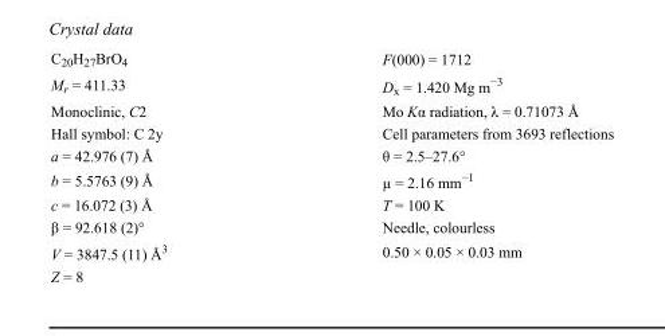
<table><tbody><tr><td>C<sub>20</sub>H<sub>27</sub>BrO<sub>4</sub></td><td>F(000) = 1712</td></tr><tr><td>M<sub>r</sub> = 411.33</td><td>D<sub>x</sub> = 1.420 Mg m<sup>−3</sup></td></tr><tr><td>Monoclinic, C2</td><td>Mo Kα radiation, λ = 0.71073 Å</td></tr><tr><td>Hall symbol: C 2y</td><td>Cell parameters from 3693 reflections</td></tr><tr><td>a = 42.976 (7) Å</td><td>θ = 2.5–27.6°</td></tr><tr><td>b = 5.5763 (9) Å</td><td>µ = 2.16 mm<sup>−1</sup></td></tr><tr><td>c = 16.072 (3) Å</td><td>T = 100 K</td></tr><tr><td>β = 92.618 (2)°</td><td>Needle, colourless</td></tr><tr><td>V = 3847.5 (11) Å<sup>3</sup></td><td>0.50 × 0.05 × 0.03 mm</td></tr><tr><td>Z = 8</td><td></td></tr></tbody></table>